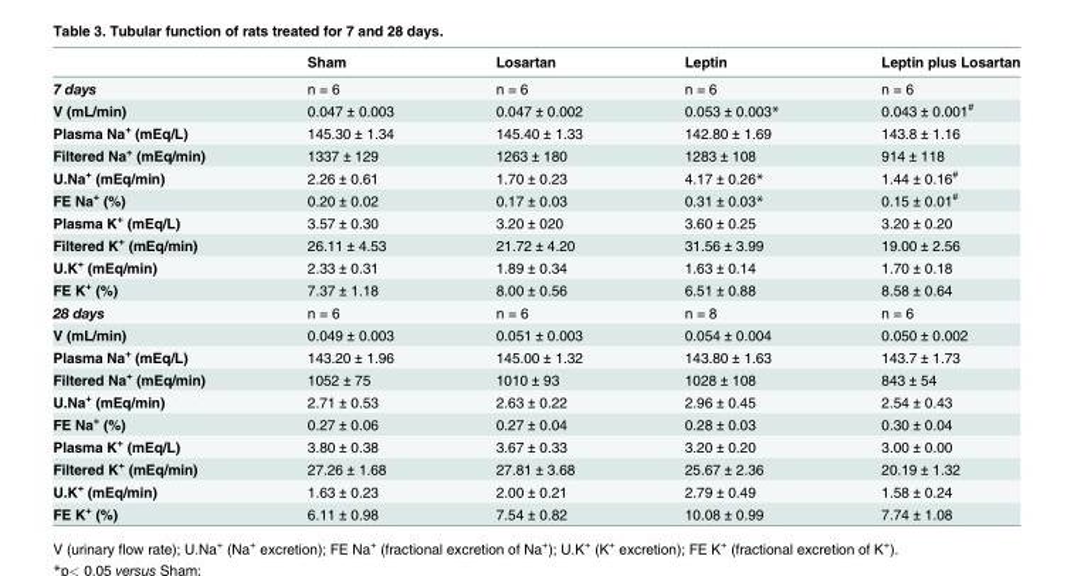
<table><thead><tr><td></td><td>Sham</td><td>Losartan</td><td>Leptin</td><td>Leptin plus Losartan</td></tr></thead><tbody><tr><td>7 days</td><td>n = 6</td><td>n = 6</td><td>n = 6</td><td>n = 6</td></tr><tr><td>V (mL/min)</td><td>0.047 ± 0.003</td><td>0.047 ± 0.002</td><td>0.053 ± 0.003*</td><td>0.043 ± 0.001<sup>#</sup></td></tr><tr><td>Plasma Na<sup>+</sup> (mEq/L)</td><td>145.30 ± 1.34</td><td>145.40 ± 1.33</td><td>142.80 ± 1.69</td><td>143.8 ± 1.16</td></tr><tr><td>Filtered Na<sup>+</sup> (mEq/min)</td><td>1337 ± 129</td><td>1263 ± 180</td><td>1283 ± 108</td><td>914 ± 118</td></tr><tr><td>U.Na<sup>+</sup> (mEq/min)</td><td>2.26 ± 0.61</td><td>1.70 ± 0.23</td><td>4.17 ± 0.26*</td><td>1.44 ± 0.16<sup>#</sup></td></tr><tr><td>FE Na<sup>+</sup> (%)</td><td>0.20 ± 0.02</td><td>0.17 ± 0.03</td><td>0.31 ± 0.03*</td><td>0.15 ± 0.01<sup>#</sup></td></tr><tr><td>Plasma K<sup>+</sup> (mEq/L)</td><td>3.57 ± 0.30</td><td>3.20 ± 020</td><td>3.60 ± 0.25</td><td>3.20 ± 0.20</td></tr><tr><td>Filtered K<sup>+</sup> (mEq/min)</td><td>26.11 ± 4.53</td><td>21.72 ± 4.20</td><td>31.56 ± 3.99</td><td>19.00 ± 2.56</td></tr><tr><td>U.K<sup>+</sup> (mEq/min)</td><td>2.33 ± 0.31</td><td>1.89 ± 0.34</td><td>1.63 ± 0.14</td><td>1.70 ± 0.18</td></tr><tr><td>FE K<sup>+</sup> (%)</td><td>7.37 ± 1.18</td><td>8.00 ± 0.56</td><td>6.51 ± 0.88</td><td>8.58 ± 0.64</td></tr><tr><td>28 days</td><td>n = 6</td><td>n = 6</td><td>n = 8</td><td>n = 6</td></tr><tr><td>V (mL/min)</td><td>0.049 ± 0.003</td><td>0.051 ± 0.003</td><td>0.054 ± 0.004</td><td>0.050 ± 0.002</td></tr><tr><td>Plasma Na<sup>+</sup> (mEq/L)</td><td>143.20 ± 1.96</td><td>145.00 ± 1.32</td><td>143.80 ± 1.63</td><td>143.7 ± 1.73</td></tr><tr><td>Filtered Na<sup>+</sup> (mEq/min)</td><td>1052 ± 75</td><td>1010 ± 93</td><td>1028 ± 108</td><td>843 ± 54</td></tr><tr><td>U.Na<sup>+</sup> (mEq/min)</td><td>2.71 ± 0.53</td><td>2.63 ± 0.22</td><td>2.96 ± 0.45</td><td>2.54 ± 0.43</td></tr><tr><td>FE Na<sup>+</sup> (%)</td><td>0.27 ± 0.06</td><td>0.27 ± 0.04</td><td>0.28 ± 0.03</td><td>0.30 ± 0.04</td></tr><tr><td>Plasma K<sup>+</sup> (mEq/L)</td><td>3.80 ± 0.38</td><td>3.67 ± 0.33</td><td>3.20 ± 0.20</td><td>3.00 ± 0.00</td></tr><tr><td>Filtered K<sup>+</sup> (mEq/min)</td><td>27.26 ± 1.68</td><td>27.81 ± 3.68</td><td>25.67 ± 2.36</td><td>20.19 ± 1.32</td></tr><tr><td>U.K<sup>+</sup> (mEq/min)</td><td>1.63 ± 0.23</td><td>2.00 ± 0.21</td><td>2.79 ± 0.49</td><td>1.58 ± 0.24</td></tr><tr><td>FE K<sup>+</sup> (%)</td><td>6.11 ± 0.98</td><td>7.54 ± 0.82</td><td>10.08 ± 0.99</td><td>7.74 ± 1.08</td></tr></tbody></table>